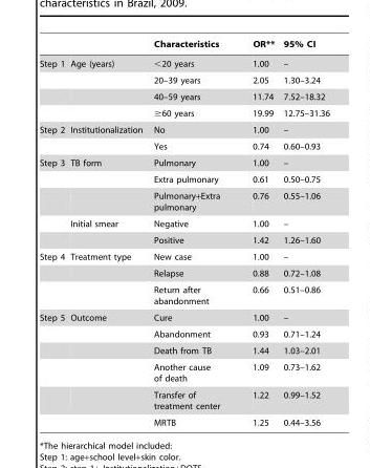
<table><thead><tr><td></td><td></td><td>Characteristics</td><td>OR**</td><td>95% CI</td></tr></thead><tbody><tr><td rowspan="4">Step 1</td><td>Age (years)</td><td>&lt;20 years</td><td>1.00</td><td>–</td></tr><tr><td></td><td>20–39 years</td><td>2.05</td><td>1.30–3.24</td></tr><tr><td></td><td>40–59 years</td><td>11.74</td><td>7.52–18.32</td></tr><tr><td></td><td>≥60 years</td><td>19.99</td><td>12.75–31.36</td></tr><tr><td rowspan="2">Step 2</td><td>Institutionalization</td><td>No</td><td>1.00</td><td>–</td></tr><tr><td></td><td>Yes</td><td>0.74</td><td>0.60–0.93</td></tr><tr><td rowspan="5">Step 3</td><td>TB form</td><td>Pulmonary</td><td>1.00</td><td>–</td></tr><tr><td></td><td>Extra pulmonary</td><td>0.61</td><td>0.50–0.75</td></tr><tr><td></td><td>Pulmonary+Extra pulmonary</td><td>0.76</td><td>0.55–1.06</td></tr><tr><td>Initial smear</td><td>Negative</td><td>1.00</td><td>–</td></tr><tr><td></td><td>Positive</td><td>1.42</td><td>1.26–1.60</td></tr><tr><td rowspan="3">Step 4</td><td>Treatment type</td><td>New case</td><td>1.00</td><td>–</td></tr><tr><td></td><td>Relapse</td><td>0.88</td><td>0.72–1.08</td></tr><tr><td></td><td>Return after abandonment</td><td>0.66</td><td>0.51–0.86</td></tr><tr><td rowspan="6">Step 5</td><td>Outcome</td><td>Cure</td><td>1.00</td><td>–</td></tr><tr><td></td><td>Abandonment</td><td>0.93</td><td>0.71–1.24</td></tr><tr><td></td><td>Death from TB</td><td>1.44</td><td>1.03–2.01</td></tr><tr><td></td><td>Another cause of death</td><td>1.09</td><td>0.73–1.62</td></tr><tr><td></td><td>Transfer of treatment center</td><td>1.22</td><td>0.99–1.52</td></tr><tr><td></td><td>MRTB</td><td>1.25</td><td>0.44–3.56</td></tr></tbody></table>